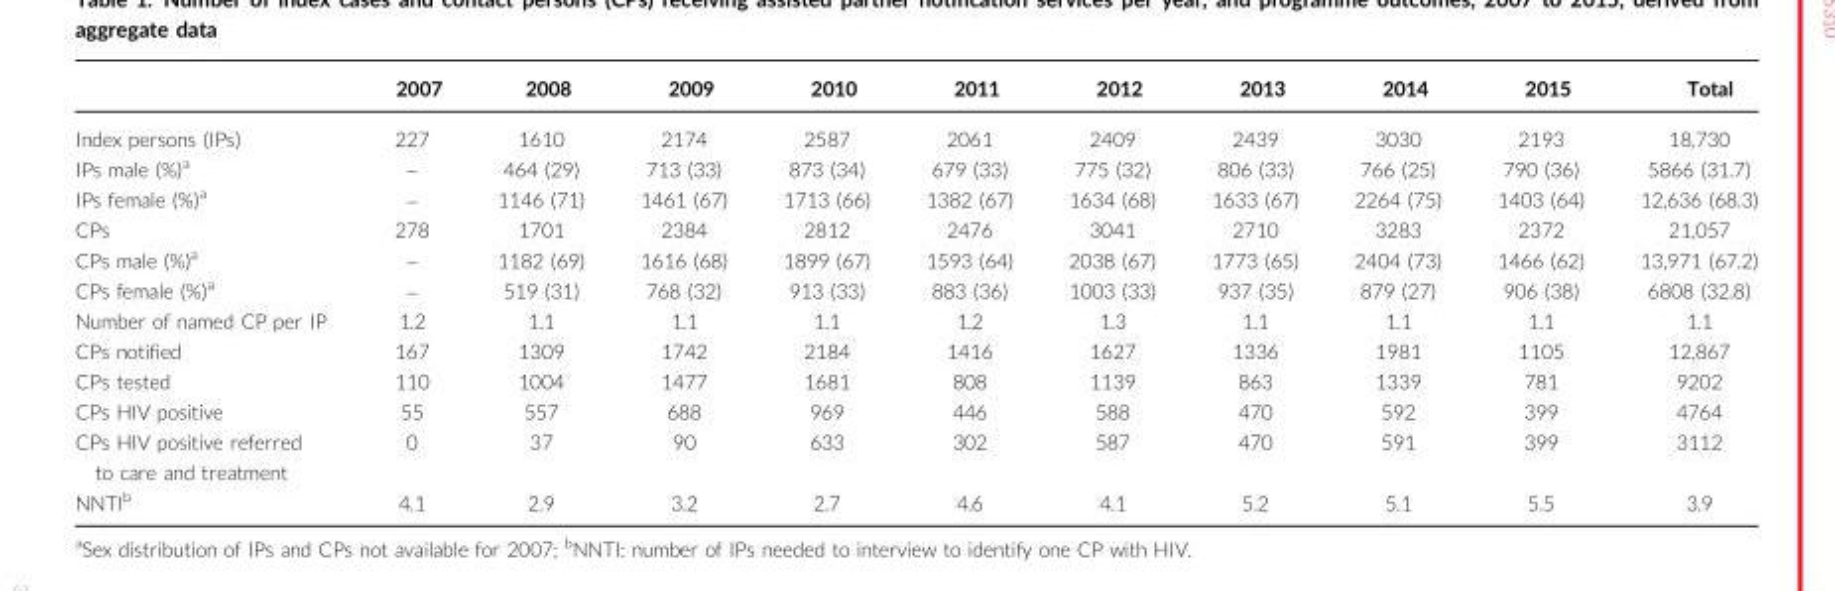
<table><thead><tr><td></td><td>2007</td><td>2008</td><td>2009</td><td>2010</td><td>2011</td><td>2012</td><td>2013</td><td>2014</td><td>2015</td><td>Total</td></tr></thead><tbody><tr><td>Index persons (IPs)</td><td>227</td><td>1610</td><td>2174</td><td>2587</td><td>2061</td><td>2409</td><td>2439</td><td>3030</td><td>2193</td><td>18,730</td></tr><tr><td>IPs male (%)<sup>a</sup></td><td>–</td><td>464 (29)</td><td>713 (33)</td><td>873 (34)</td><td>679 (33)</td><td>775 (32)</td><td>806 (33)</td><td>766 (25)</td><td>790 (36)</td><td>5866 (31.7)</td></tr><tr><td>IPs female (%)<sup>a</sup></td><td>–</td><td>1146 (71)</td><td>1461 (67)</td><td>1713 (66)</td><td>1382 (67)</td><td>1634 (68)</td><td>1633 (67)</td><td>2264 (75)</td><td>1403 (64)</td><td>12,636 (68.3)</td></tr><tr><td>CPs</td><td>278</td><td>1701</td><td>2384</td><td>2812</td><td>2476</td><td>3041</td><td>2710</td><td>3283</td><td>2372</td><td>21,057</td></tr><tr><td>CPs male (%)<sup>a</sup></td><td>–</td><td>1182 (69)</td><td>1616 (68)</td><td>1899 (67)</td><td>1593 (64)</td><td>2038 (67)</td><td>1773 (65)</td><td>2404 (73)</td><td>1466 (62)</td><td>13,971 (67.2)</td></tr><tr><td>CPs female (%)<sup>a</sup></td><td>–</td><td>519 (31)</td><td>768 (32)</td><td>913 (33)</td><td>883 (36)</td><td>1003 (33)</td><td>937 (35)</td><td>879 (27)</td><td>906 (38)</td><td>6808 (32.8)</td></tr><tr><td>Number of named CP per IP</td><td>1.2</td><td>1.1</td><td>1.1</td><td>1.1</td><td>1.2</td><td>1.3</td><td>1.1</td><td>1.1</td><td>1.1</td><td>1.1</td></tr><tr><td>CPs notified</td><td>167</td><td>1309</td><td>1742</td><td>2184</td><td>1416</td><td>1627</td><td>1336</td><td>1981</td><td>1105</td><td>12,867</td></tr><tr><td>CPs tested</td><td>110</td><td>1004</td><td>1477</td><td>1681</td><td>808</td><td>1139</td><td>863</td><td>1339</td><td>781</td><td>9202</td></tr><tr><td>CPs HIV positive</td><td>55</td><td>557</td><td>688</td><td>969</td><td>446</td><td>588</td><td>470</td><td>592</td><td>399</td><td>4764</td></tr><tr><td>CPs HIV positive referred to care and treatment</td><td>0</td><td>37</td><td>90</td><td>633</td><td>302</td><td>587</td><td>470</td><td>591</td><td>399</td><td>3112</td></tr><tr><td>NNTI<sup>b</sup></td><td>4.1</td><td>2.9</td><td>3.2</td><td>2.7</td><td>4.6</td><td>4.1</td><td>5.2</td><td>5.1</td><td>5.5</td><td>3.9</td></tr></tbody></table>